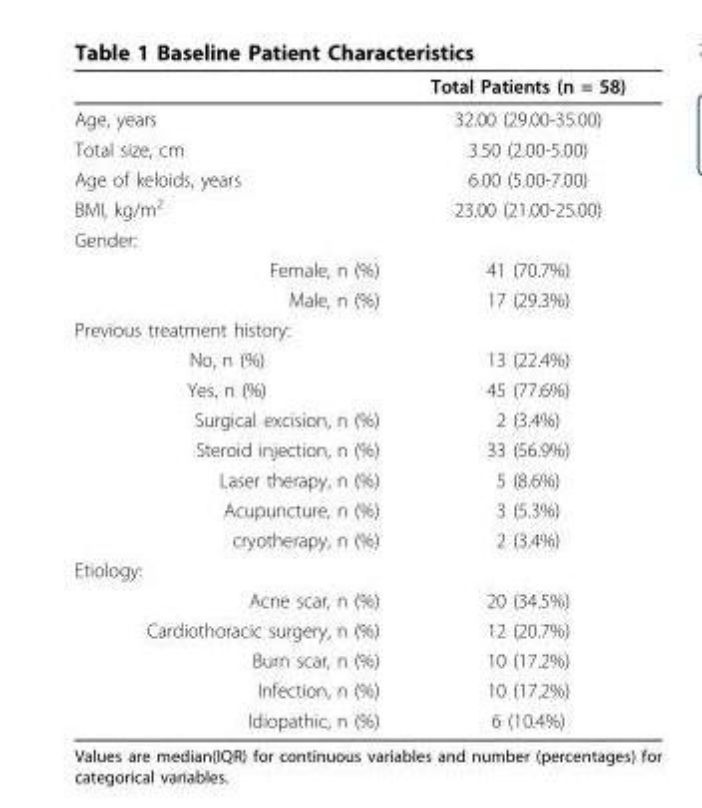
<table><thead><tr><td></td><td>Total Patients (n = 58)</td></tr></thead><tbody><tr><td>Age, years</td><td>32.00 (29.00-35.00)</td></tr><tr><td>Total size, cm</td><td>3.50 (2.00-5.00)</td></tr><tr><td>Age of keloids, years</td><td>6.00 (5.00-7.00)</td></tr><tr><td>BMI, kg/m<sup>2</sup></td><td>23.00 (21.00-25.00)</td></tr><tr><td colspan="2">Gender:</td></tr><tr><td>Female, n (%)</td><td>41 (70.7%)</td></tr><tr><td>Male, n (%)</td><td>17 (29.3%)</td></tr><tr><td colspan="2">Previous treatment history:</td></tr><tr><td>No, n (%)</td><td>13 (22.4%)</td></tr><tr><td>Yes, n (%)</td><td>45 (77.6%)</td></tr><tr><td>Surgical excision, n (%)</td><td>2 (3.4%)</td></tr><tr><td>Steroid injection, n (%)</td><td>33 (56.9%)</td></tr><tr><td>Laser therapy, n (%)</td><td>5 (8.6%)</td></tr><tr><td>Acupuncture, n (%)</td><td>3 (5.3%)</td></tr><tr><td>cryotherapy, n (%)</td><td>2 (3.4%)</td></tr><tr><td colspan="2">Etiology:</td></tr><tr><td>Acne scar, n (%)</td><td>20 (34.5%)</td></tr><tr><td>Cardiothoracic surgery, n (%)</td><td>12 (20.7%)</td></tr><tr><td>Burn scar, n (%)</td><td>10 (17.2%)</td></tr><tr><td>Infection, n (%)</td><td>10 (17.2%)</td></tr><tr><td>Idiopathic, n (%)</td><td>6 (10.4%)</td></tr></tbody></table>